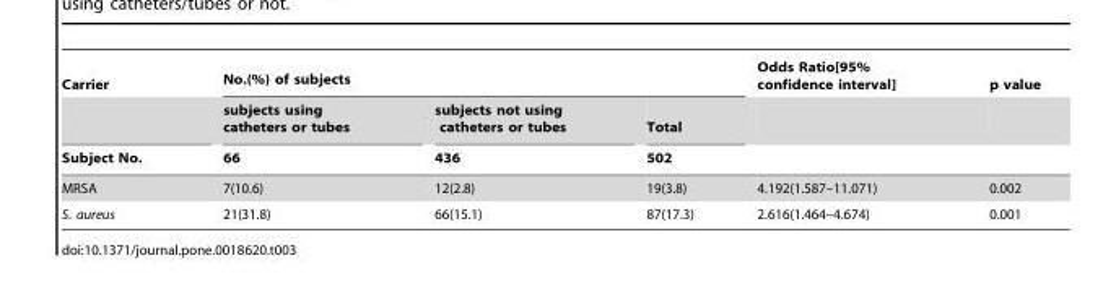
<table><thead><tr><td rowspan="3">Carrier Subject No.</td><td colspan="3">No.(%) of subjects</td><td rowspan="3">Odds Ratio[95% confidence interval]</td><td rowspan="3">p value</td></tr><tr><td rowspan="2">subjects using catheters or tubes 66</td><td rowspan="2">subjects not using catheters or tubes 436</td><td rowspan="2">Total 502</td></tr><tr></tr></thead><tbody><tr><td>MRSA</td><td>7(10.6)</td><td>12(2.8)</td><td>19(3.8)</td><td>4.192(1.587–11.071)</td><td>0.002</td></tr><tr><td>S. aureus</td><td>21(31.8)</td><td>66(15.1)</td><td>87(17.3)</td><td>2.616(1.464–4.674)</td><td>0.001</td></tr></tbody></table>